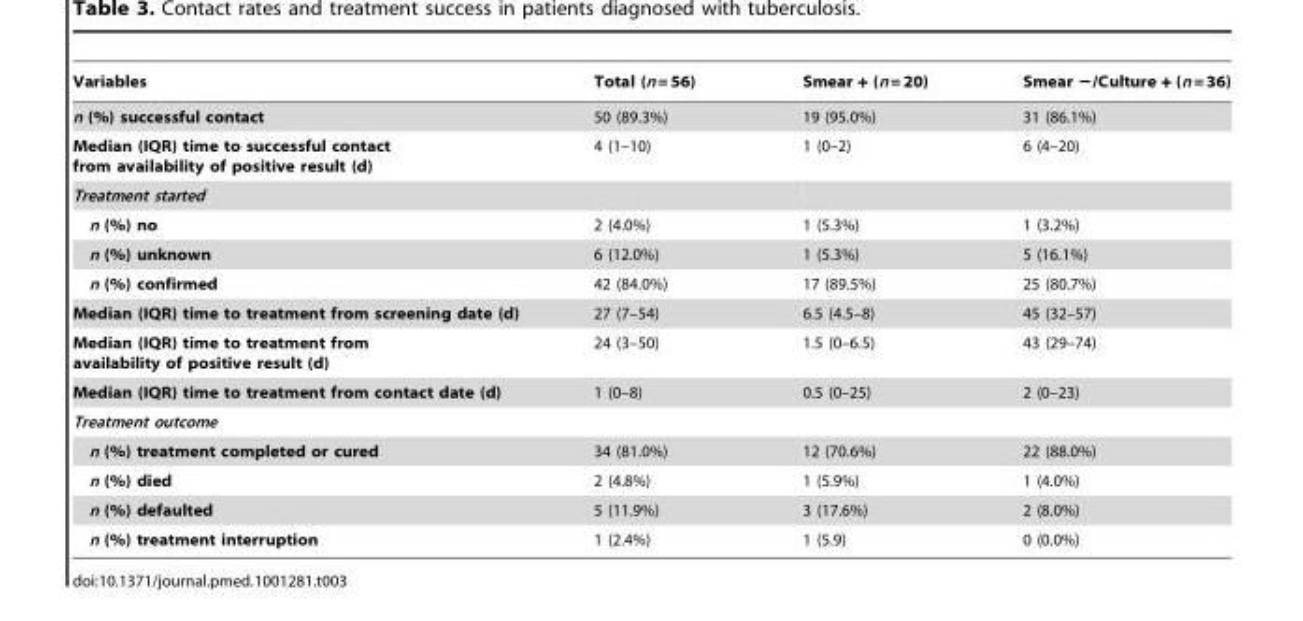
<table><thead><tr><td>Variables</td><td>Total (n = 56)</td><td>Smear + (n = 20)</td><td>Smear −/Culture + (n = 36)</td></tr></thead><tbody><tr><td>n (%) successful contact</td><td>50 (89.3%)</td><td>19 (95.0%)</td><td>31 (86.1%)</td></tr><tr><td>Median (IQR) time to successful contact from availability of positive result (d)</td><td>4 (1–10)</td><td>1 (0–2)</td><td>6 (4–20)</td></tr><tr><td colspan="4">Treatment started</td></tr><tr><td>n (%) no</td><td>2 (4.0%)</td><td>1 (5.3%)</td><td>1 (3.2%)</td></tr><tr><td>n (%) unknown</td><td>6 (12.0%)</td><td>1 (5.3%)</td><td>5 (16.1%)</td></tr><tr><td>n (%) confirmed</td><td>42 (84.0%)</td><td>17 (89.5%)</td><td>25 (80.7%)</td></tr><tr><td>Median (IQR) time to treatment from screening date (d)</td><td>27 (7–54)</td><td>6.5 (4.5–8)</td><td>45 (32–57)</td></tr><tr><td>Median (IQR) time to treatment from availability of positive result (d)</td><td>24 (3–50)</td><td>1.5 (0–6.5)</td><td>43 (29–74)</td></tr><tr><td>Median (IQR) time to treatment from contact date (d)</td><td>1 (0–8)</td><td>0.5 (0–25)</td><td>2 (0–23)</td></tr><tr><td colspan="4">Treatment outcome</td></tr><tr><td>n (%) treatment completed or cured</td><td>34 (81.0%)</td><td>12 (70.6%)</td><td>22 (88.0%)</td></tr><tr><td>n (%) died</td><td>2 (4.8%)</td><td>1 (5.9%)</td><td>1 (4.0%)</td></tr><tr><td>n (%) defaulted</td><td>5 (11.9%)</td><td>3 (17.6%)</td><td>2 (8.0%)</td></tr><tr><td>n (%) treatment interruption</td><td>1 (2.4%)</td><td>1 (5.9)</td><td>0 (0.0%)</td></tr></tbody></table>